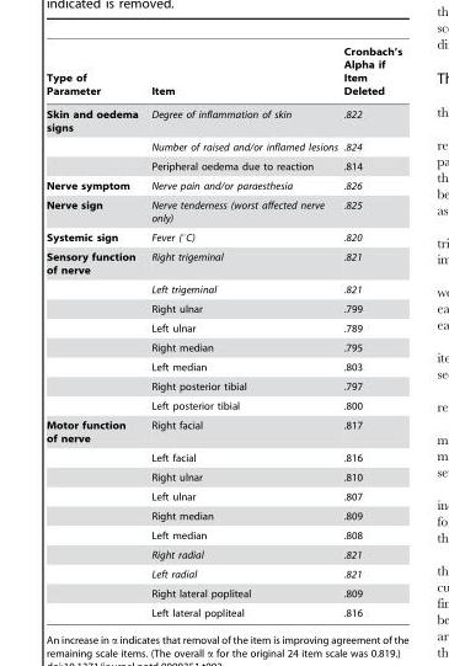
<table><thead><tr><td>Type of Parameter</td><td>Item</td><td>Cronbach’s Alpha if Item Deleted</td></tr></thead><tbody><tr><td rowspan="3">Skin and oedema signs</td><td>Degree of inflammation of skin</td><td>.822</td></tr><tr><td>Number of raised and/or inflamed lesions</td><td>.824</td></tr><tr><td>Peripheral oedema due to reaction</td><td>.814</td></tr><tr><td>Nerve symptom</td><td>Nerve pain and/or paraesthesia</td><td>.826</td></tr><tr><td>Nerve sign</td><td>Nerve tenderness (worst affected nerve only)</td><td>.825</td></tr><tr><td>Systemic sign</td><td>Fever (°C)</td><td>.820</td></tr><tr><td rowspan="8">Sensory function of nerve</td><td>Right trigeminal</td><td>.821</td></tr><tr><td>Left trigeminal</td><td>.821</td></tr><tr><td>Right ulnar</td><td>.799</td></tr><tr><td>Left ulnar</td><td>.789</td></tr><tr><td>Right median</td><td>.795</td></tr><tr><td>Left median</td><td>.803</td></tr><tr><td>Right posterior tibial</td><td>.797</td></tr><tr><td>Left posterior tibial</td><td>.800</td></tr><tr><td rowspan="10">Motor function of nerve</td><td>Right facial</td><td>.817</td></tr><tr><td>Left facial</td><td>.816</td></tr><tr><td>Right ulnar</td><td>.810</td></tr><tr><td>Left ulnar</td><td>.807</td></tr><tr><td>Right median</td><td>.809</td></tr><tr><td>Left median</td><td>.808</td></tr><tr><td>Right radial</td><td>.821</td></tr><tr><td>Left radial</td><td>.821</td></tr><tr><td>Right lateral popliteal</td><td>.809</td></tr><tr><td>Left lateral popliteal</td><td>.816</td></tr></tbody></table>